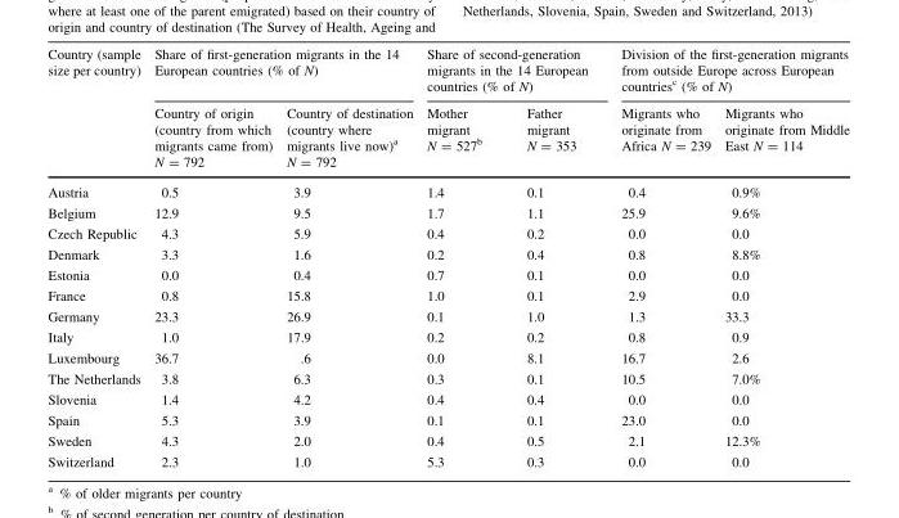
<table><thead><tr><td rowspan="2">Country (sample size per country)</td><td colspan="2">Share of first-generation migrants in the 14 European countries (% of N)</td><td colspan="2">Share of second-generation migrants in the 14 European countries (% of N)</td><td colspan="2">Division of the first-generation migrants from outside Europe across European countries<sup>c</sup> (% of N)</td></tr><tr><td>Country of origin (country from which migrants came from) N = 792</td><td>Country of destination (country where migrants live now)<sup>a</sup> N = 792</td><td>Mother migrant N = 527<sup>b</sup></td><td>Father migrant N = 353</td><td>Migrants who originate from Africa N = 239</td><td>Migrants who originate from Middle East N = 114</td></tr></thead><tbody><tr><td>Austria</td><td>0.5</td><td>3.9</td><td>1.4</td><td>0.1</td><td>0.4</td><td>0.9%</td></tr><tr><td>Belgium</td><td>12.9</td><td>9.5</td><td>1.7</td><td>1.1</td><td>25.9</td><td>9.6%</td></tr><tr><td>Czech Republic</td><td>4.3</td><td>5.9</td><td>0.4</td><td>0.2</td><td>0.0</td><td>0.0</td></tr><tr><td>Denmark</td><td>3.3</td><td>1.6</td><td>0.2</td><td>0.4</td><td>0.8</td><td>8.8%</td></tr><tr><td>Estonia</td><td>0.0</td><td>0.4</td><td>0.7</td><td>0.1</td><td>0.0</td><td>0.0</td></tr><tr><td>France</td><td>0.8</td><td>15.8</td><td>1.0</td><td>0.1</td><td>2.9</td><td>0.0</td></tr><tr><td>Germany</td><td>23.3</td><td>26.9</td><td>0.1</td><td>1.0</td><td>1.3</td><td>33.3</td></tr><tr><td>Italy</td><td>1.0</td><td>17.9</td><td>0.2</td><td>0.2</td><td>0.8</td><td>0.9</td></tr><tr><td>Luxembourg</td><td>36.7</td><td>.6</td><td>0.0</td><td>8.1</td><td>16.7</td><td>2.6</td></tr><tr><td>The Netherlands</td><td>3.8</td><td>6.3</td><td>0.3</td><td>0.1</td><td>10.5</td><td>7.0%</td></tr><tr><td>Slovenia</td><td>1.4</td><td>4.2</td><td>0.4</td><td>0.4</td><td>0.0</td><td>0.0</td></tr><tr><td>Spain</td><td>5.3</td><td>3.9</td><td>0.1</td><td>0.1</td><td>23.0</td><td>0.0</td></tr><tr><td>Sweden</td><td>4.3</td><td>2.0</td><td>0.4</td><td>0.5</td><td>2.1</td><td>12.3%</td></tr><tr><td>Switzerland</td><td>2.3</td><td>1.0</td><td>5.3</td><td>0.3</td><td>0.0</td><td>0.0</td></tr></tbody></table>